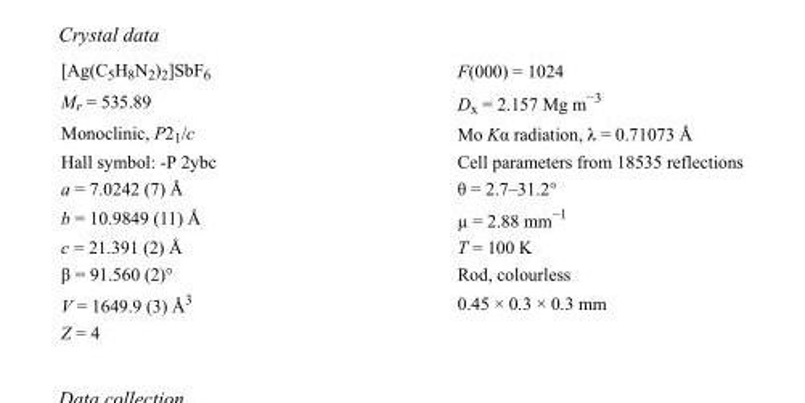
<table><tbody><tr><td>[Ag(C<sub>5</sub>H<sub>8</sub>N<sub>2</sub>)<sub>2</sub>]SbF<sub>6</sub></td><td>F(000) = 1024</td></tr><tr><td>M<sub>r</sub> = 535.89</td><td>D<sub>x</sub> = 2.157 Mg m<sup>−3</sup></td></tr><tr><td>Monoclinic, P2<sub>1</sub>/c</td><td>Mo Kα radiation, λ = 0.71073 Å</td></tr><tr><td>Hall symbol: -P 2ybc</td><td>Cell parameters from 18535 reflections</td></tr><tr><td>a = 7.0242 (7) Å</td><td>θ = 2.7–31.2°</td></tr><tr><td>b = 10.9849 (11) Å</td><td>µ = 2.88 mm<sup>−1</sup></td></tr><tr><td>c = 21.391 (2) Å</td><td>T = 100 K</td></tr><tr><td>β = 91.560 (2)°</td><td>Rod, colourless</td></tr><tr><td>V = 1649.9 (3) Å<sup>3</sup></td><td>0.45 × 0.3 × 0.3 mm</td></tr><tr><td>Z = 4</td><td></td></tr></tbody></table>